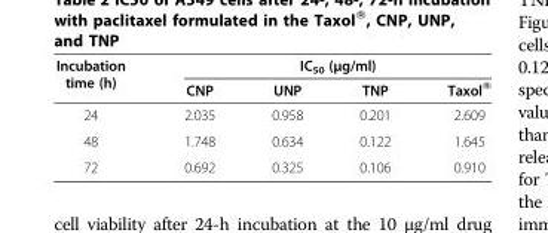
<table><thead><tr><td rowspan="2">Incubation time (h)</td><td colspan="4">IC<sub>50</sub> (μg/ml)</td></tr><tr><td>CNP</td><td>UNP</td><td>TNP</td><td>Taxol®</td></tr></thead><tbody><tr><td>24</td><td>2.035</td><td>0.958</td><td>0.201</td><td>2.609</td></tr><tr><td>48</td><td>1.748</td><td>0.634</td><td>0.122</td><td>1.645</td></tr><tr><td>72</td><td>0.692</td><td>0.325</td><td>0.106</td><td>0.910</td></tr></tbody></table>